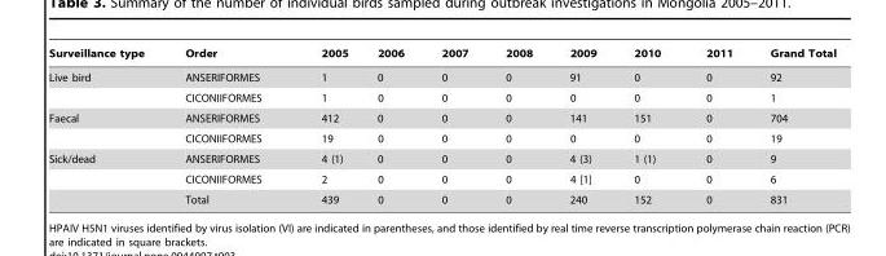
<table><thead><tr><td>Surveillance type</td><td>Order</td><td>2005</td><td>2006</td><td>2007</td><td>2008</td><td>2009</td><td>2010</td><td>2011</td><td>Grand Total</td></tr></thead><tbody><tr><td rowspan="2">Live bird</td><td>ANSERIFORMES</td><td>1</td><td>0</td><td>0</td><td>0</td><td>91</td><td>0</td><td>0</td><td>92</td></tr><tr><td>CICONIIFORMES</td><td>1</td><td>0</td><td>0</td><td>0</td><td>0</td><td>0</td><td>0</td><td>1</td></tr><tr><td rowspan="2">Faecal</td><td>ANSERIFORMES</td><td>412</td><td>0</td><td>0</td><td>0</td><td>141</td><td>151</td><td>0</td><td>704</td></tr><tr><td>CICONIIFORMES</td><td>19</td><td>0</td><td>0</td><td>0</td><td>0</td><td>0</td><td>0</td><td>19</td></tr><tr><td rowspan="3">Sick/dead</td><td>ANSERIFORMES</td><td>4 (1)</td><td>0</td><td>0</td><td>0</td><td>4 (3)</td><td>1 (1)</td><td>0</td><td>9</td></tr><tr><td>CICONIIFORMES</td><td>2</td><td>0</td><td>0</td><td>0</td><td>4 [1]</td><td>0</td><td>0</td><td>6</td></tr><tr><td>Total</td><td>439</td><td>0</td><td>0</td><td>0</td><td>240</td><td>152</td><td>0</td><td>831</td></tr></tbody></table>